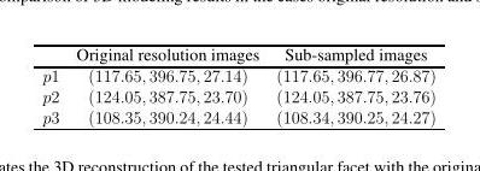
<table><thead><tr><td></td><td>Original resolution images</td><td>Sub-sampled images</td></tr></thead><tbody><tr><td>p1</td><td>(117.65, 396.75, 27.14)</td><td>(117.65, 396.77, 26.87)</td></tr><tr><td>p2</td><td>(124.05, 387.75, 23.70)</td><td>(124.05, 387.75, 23.76)</td></tr><tr><td>p3</td><td>(108.35, 390.24, 24.44)</td><td>(108.34, 390.25, 24.27)</td></tr></tbody></table>